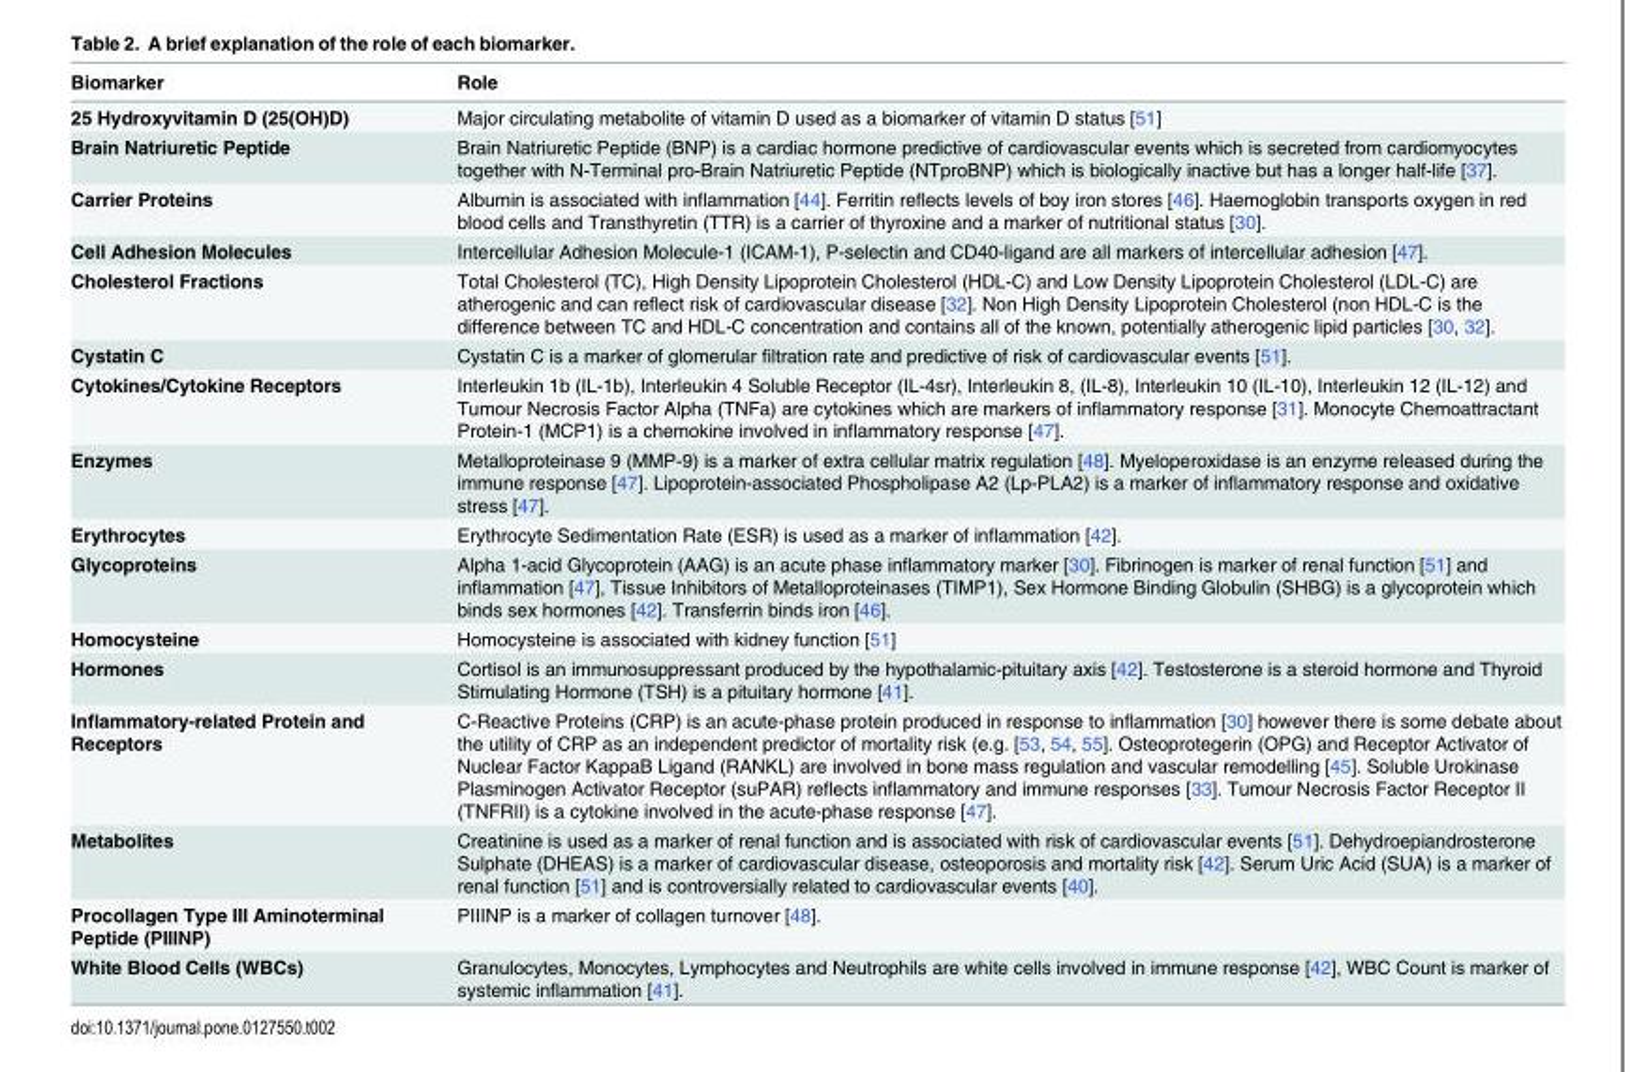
<table><thead><tr><td>Biomarker</td><td>Role</td></tr></thead><tbody><tr><td>25 Hydroxyvitamin D (25(OH)D)</td><td>Major circulating metabolite of vitamin D used as a biomarker of vitamin D status [51]</td></tr><tr><td>Brain Natriuretic Peptide</td><td>Brain Natriuretic Peptide (BNP) is a cardiac hormone predictive of cardiovascular events which is secreted from cardiomyocytes together with N-Terminal pro-Brain Natriuretic Peptide (NTproBNP) which is biologically inactive but has a longer half-life [37].</td></tr><tr><td>Carrier Proteins</td><td>Albumin is associated with inflammation [44]. Ferritin reflects levels of boy iron stores [46]. Haemoglobin transports oxygen in red blood cells and Transthyretin (TTR) is a carrier of thyroxine and a marker of nutritional status [30].</td></tr><tr><td>Cell Adhesion Molecules</td><td>Intercellular Adhesion Molecule-1 (ICAM-1), P-selectin and CD40-ligand are all markers of intercellular adhesion [47].</td></tr><tr><td>Cholesterol Fractions</td><td>Total Cholesterol (TC), High Density Lipoprotein Cholesterol (HDL-C) and Low Density Lipoprotein Cholesterol (LDL-C) are atherogenic and can reflect risk of cardiovascular disease [32]. Non High Density Lipoprotein Cholesterol (non HDL-C is the difference between TC and HDL-C concentration and contains all of the known, potentially atherogenic lipid particles [30, 32].</td></tr><tr><td>Cystatin C</td><td>Cystatin C is a marker of glomerular filtration rate and predictive of risk of cardiovascular events [51].</td></tr><tr><td>Cytokines/Cytokine Receptors</td><td>Interleukin 1b (IL-1b), Interleukin 4 Soluble Receptor (IL-4sr), Interleukin 8, (IL-8), Interleukin 10 (IL-10), Interleukin 12 (IL-12) and Tumour Necrosis Factor Alpha (TNFa) are cytokines which are markers of inflammatory response [31]. Monocyte Chemoattractant Protein-1 (MCP1) is a chemokine involved in inflammatory response [47].</td></tr><tr><td>Enzymes</td><td>Metalloproteinase 9 (MMP-9) is a marker of extra cellular matrix regulation [48]. Myeloperoxidase is an enzyme released during the immune response [47]. Lipoprotein-associated Phospholipase A2 (Lp-PLA2) is a marker of inflammatory response and oxidative stress [47].</td></tr><tr><td>Erythrocytes</td><td>Erythrocyte Sedimentation Rate (ESR) is used as a marker of inflammation [42].</td></tr><tr><td>Glycoproteins</td><td>Alpha 1-acid Glycoprotein (AAG) is an acute phase inflammatory marker [30]. Fibrinogen is marker of renal function [51] and inflammation [47], Tissue Inhibitors of Metalloproteinases (TIMP1), Sex Hormone Binding Globulin (SHBG) is a glycoprotein which binds sex hormones [42]. Transferrin binds iron [46].</td></tr><tr><td>Homocysteine</td><td>Homocysteine is associated with kidney function [51]</td></tr><tr><td>Hormones</td><td>Cortisol is an immunosuppressant produced by the hypothalamic-pituitary axis [42]. Testosterone is a steroid hormone and Thyroid Stimulating Hormone (TSH) is a pituitary hormone [41].</td></tr><tr><td>Inflammatory-related Protein and Receptors</td><td>C-Reactive Proteins (CRP) is an acute-phase protein produced in response to inflammation [30] however there is some debate about the utility of CRP as an independent predictor of mortality risk (e.g. [53, 54, 55]. Osteoprotegerin (OPG) and Receptor Activator of Nuclear Factor KappaB Ligand (RANKL) are involved in bone mass regulation and vascular remodelling [45]. Soluble Urokinase Plasminogen Activator Receptor (suPAR) reflects inflammatory and immune responses [33]. Tumour Necrosis Factor Receptor II (TNFRII) is a cytokine involved in the acute-phase response [47].</td></tr><tr><td>Metabolites</td><td>Creatinine is used as a marker of renal function and is associated with risk of cardiovascular events [51]. Dehydroepiandrosterone Sulphate (DHEAS) is a marker of cardiovascular disease, osteoporosis and mortality risk [42]. Serum Uric Acid (SUA) is a marker of renal function [51] and is controversially related to cardiovascular events [40].</td></tr><tr><td>Procollagen Type III Aminoterminal Peptide (PIIINP)</td><td>PIIINP is a marker of collagen turnover [48].</td></tr><tr><td>White Blood Cells (WBCs)</td><td>Granulocytes, Monocytes, Lymphocytes and Neutrophils are white cells involved in immune response [42], WBC Count is marker of systemic inflammation [41].</td></tr></tbody></table>